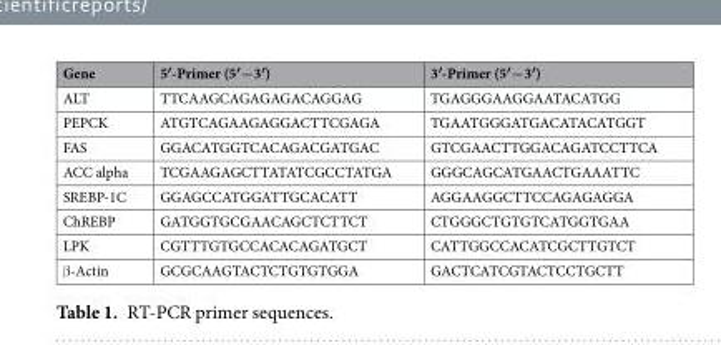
<table><thead><tr><td>Gene</td><td>5′-Primer (5′−3′)</td><td>3′-Primer (5′−3′)</td></tr></thead><tbody><tr><td>ALT</td><td>TTCAAGCAGAGAGACAGGAG</td><td>TGAGGGAAGGAATACATGG</td></tr><tr><td>PEPCK</td><td>ATGTCAGAAGAGGACTTCGAGA</td><td>TGAATGGGATGACATACATGGT</td></tr><tr><td>FAS</td><td>GGACATGGTCACAGACGATGAC</td><td>GTCGAACTTGGACAGATCCTTCA</td></tr><tr><td>ACC alpha</td><td>TCGAAGAGCTTATATCGCCTATGA</td><td>GGGCAGCATGAACTGAAATTC</td></tr><tr><td>SREBP-1C</td><td>GGAGCCATGGATTGCACATT</td><td>AGGAAGGCTTCCAGAGAGGA</td></tr><tr><td>ChREBP</td><td>GATGGTGCGAACAGCTCTTCT</td><td>CTGGGCTGTGTCATGGTGAA</td></tr><tr><td>LPK</td><td>CGTTTGTGCCACACAGATGCT</td><td>CATTGGCCACATCGCTTGTCT</td></tr><tr><td>β-Actin</td><td>GCGCAAGTACTCTGTGTGGA</td><td>GACTCATCGTACTCCTGCTT</td></tr></tbody></table>